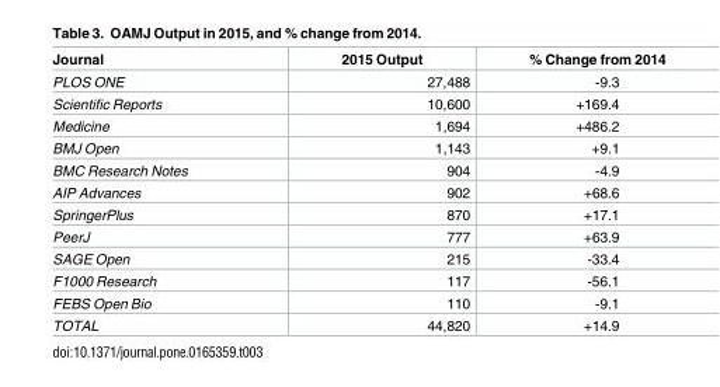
<table><thead><tr><td>Journal</td><td>2015 Output</td><td>% Change from 2014</td></tr></thead><tbody><tr><td>PLOS ONE</td><td>27,488</td><td>-9.3</td></tr><tr><td>Scientific Reports</td><td>10,600</td><td>+169.4</td></tr><tr><td>Medicine</td><td>1,694</td><td>+486.2</td></tr><tr><td>BMJ Open</td><td>1,143</td><td>+9.1</td></tr><tr><td>BMC Research Notes</td><td>904</td><td>-4.9</td></tr><tr><td>AIP Advances</td><td>902</td><td>+68.6</td></tr><tr><td>SpringerPlus</td><td>870</td><td>+17.1</td></tr><tr><td>PeerJ</td><td>777</td><td>+63.9</td></tr><tr><td>SAGE Open</td><td>215</td><td>-33.4</td></tr><tr><td>F1000 Research</td><td>117</td><td>-56.1</td></tr><tr><td>FEBS Open Bio</td><td>110</td><td>-9.1</td></tr><tr><td>TOTAL</td><td>44,820</td><td>+14.9</td></tr></tbody></table>